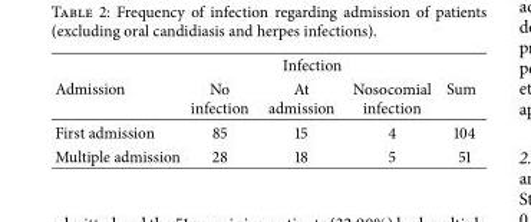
<table><thead><tr><td rowspan="2">Admission</td><td colspan="3">Infection</td><td rowspan="2">Sum</td></tr><tr><td>No infection</td><td>At admission</td><td>Nosocomial infection</td></tr></thead><tbody><tr><td>First admission</td><td>85</td><td>15</td><td>4</td><td>104</td></tr><tr><td>Multiple admission</td><td>28</td><td>18</td><td>5</td><td>51</td></tr></tbody></table>